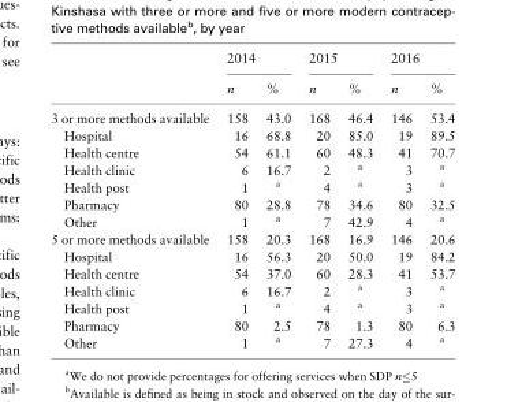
<table><thead><tr><td rowspan="2"></td><td colspan="2">2014</td><td colspan="2">2015</td><td colspan="2">2016</td></tr><tr><td>n</td><td>%</td><td>n</td><td>%</td><td>n</td><td>%</td></tr></thead><tbody><tr><td>3 or more methods available</td><td>158</td><td>43.0</td><td>168</td><td>46.4</td><td>146</td><td>53.4</td></tr><tr><td>Hospital</td><td>16</td><td>68.8</td><td>20</td><td>85.0</td><td>19</td><td>89.5</td></tr><tr><td>Health centre</td><td>54</td><td>61.1</td><td>60</td><td>48.3</td><td>41</td><td>70.7</td></tr><tr><td>Health clinic</td><td>6</td><td>16.7</td><td>2</td><td><sup>a</sup></td><td>3</td><td><sup>a</sup></td></tr><tr><td>Health post</td><td>1</td><td><sup>a</sup></td><td>4</td><td><sup>a</sup></td><td>3</td><td><sup>a</sup></td></tr><tr><td>Pharmacy</td><td>80</td><td>28.8</td><td>78</td><td>34.6</td><td>80</td><td>32.5</td></tr><tr><td>Other</td><td>1</td><td><sup>a</sup></td><td>7</td><td>42.9</td><td>4</td><td><sup>a</sup></td></tr><tr><td>5 or more methods available</td><td>158</td><td>20.3</td><td>168</td><td>16.9</td><td>146</td><td>20.6</td></tr><tr><td>Hospital</td><td>16</td><td>56.3</td><td>20</td><td>50.0</td><td>19</td><td>84.2</td></tr><tr><td>Health centre</td><td>54</td><td>37.0</td><td>60</td><td>28.3</td><td>41</td><td>53.7</td></tr><tr><td>Health clinic</td><td>6</td><td>16.7</td><td>2</td><td><sup>a</sup></td><td>3</td><td><sup>a</sup></td></tr><tr><td>Health post</td><td>1</td><td><sup>a</sup></td><td>4</td><td><sup>a</sup></td><td>3</td><td><sup>a</sup></td></tr><tr><td>Pharmacy</td><td>80</td><td>2.5</td><td>78</td><td>1.3</td><td>80</td><td>6.3</td></tr><tr><td>Other</td><td>1</td><td><sup>a</sup></td><td>7</td><td>27.3</td><td>4</td><td><sup>a</sup></td></tr></tbody></table>